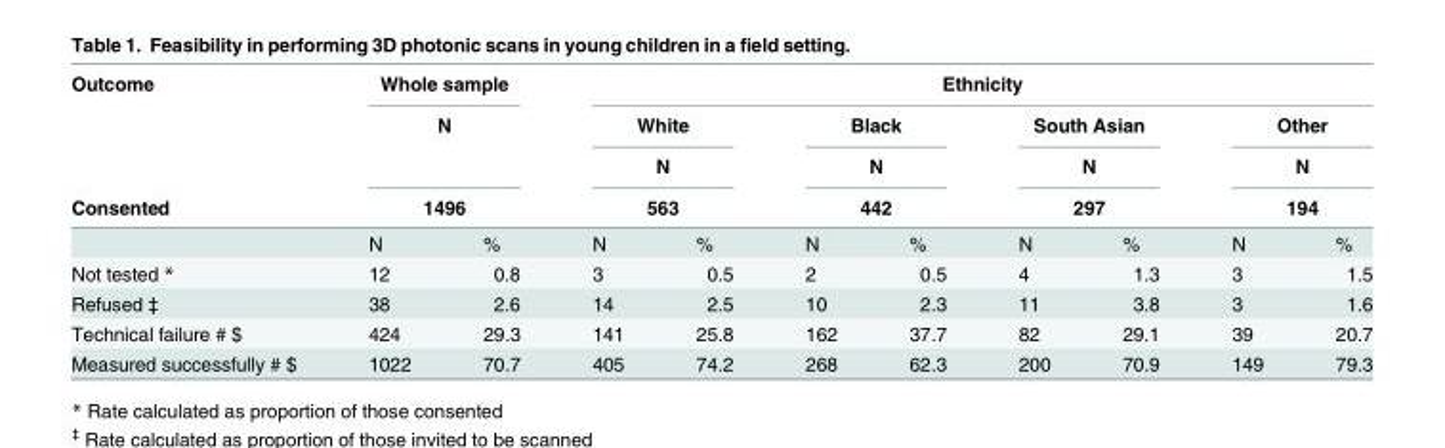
<table><thead><tr><td rowspan="5">Outcome Consented</td><td rowspan="4" colspan="2">Whole sample N 1496</td><td colspan="8">Ethnicity</td></tr><tr><td rowspan="3" colspan="2">White N 563</td><td rowspan="3" colspan="2">Black N 442</td><td rowspan="3" colspan="2">South Asian N 297</td><td rowspan="3" colspan="2">Other N 194</td></tr><tr></tr><tr></tr><tr><td>N</td><td>%</td><td>N</td><td>%</td><td>N</td><td>%</td><td>N</td><td>%</td><td>N</td><td>%</td></tr></thead><tbody><tr><td>Not tested *</td><td>12</td><td>0.8</td><td>3</td><td>0.5</td><td>2</td><td>0.5</td><td>4</td><td>1.3</td><td>3</td><td>1.5</td></tr><tr><td>Refused ‡</td><td>38</td><td>2.6</td><td>14</td><td>2.5</td><td>10</td><td>2.3</td><td>11</td><td>3.8</td><td>3</td><td>1.6</td></tr><tr><td>Technical failure # $</td><td>424</td><td>29.3</td><td>141</td><td>25.8</td><td>162</td><td>37.7</td><td>82</td><td>29.1</td><td>39</td><td>20.7</td></tr><tr><td>Measured successfully # $</td><td>1022</td><td>70.7</td><td>405</td><td>74.2</td><td>268</td><td>62.3</td><td>200</td><td>70.9</td><td>149</td><td>79.3</td></tr></tbody></table>